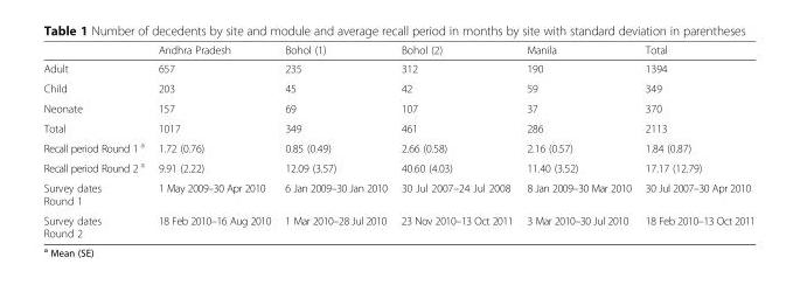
<table><thead><tr><td></td><td>Andhra Pradesh</td><td>Bohol (1)</td><td>Bohol (2)</td><td>Manila</td><td>Total</td></tr></thead><tbody><tr><td>Adult</td><td>657</td><td>235</td><td>312</td><td>190</td><td>1394</td></tr><tr><td>Child</td><td>203</td><td>45</td><td>42</td><td>59</td><td>349</td></tr><tr><td>Neonate</td><td>157</td><td>69</td><td>107</td><td>37</td><td>370</td></tr><tr><td>Total</td><td>1017</td><td>349</td><td>461</td><td>286</td><td>2113</td></tr><tr><td>Recall period Round 1 <sup>a</sup></td><td>1.72 (0.76)</td><td>0.85 (0.49)</td><td>2.66 (0.58)</td><td>2.16 (0.57)</td><td>1.84 (0.87)</td></tr><tr><td>Recall period Round 2 <sup>a</sup></td><td>9.91 (2.22)</td><td>12.09 (3.57)</td><td>40.60 (4.03)</td><td>11.40 (3.52)</td><td>17.17 (12.79)</td></tr><tr><td>Survey dates Round 1</td><td>1 May 2009–30 Apr 2010</td><td>6 Jan 2009–30 Jan 2010</td><td>30 Jul 2007–24 Jul 2008</td><td>8 Jan 2009–30 Mar 2010</td><td>30 Jul 2007–30 Apr 2010</td></tr><tr><td>Survey dates Round 2</td><td>18 Feb 2010–16 Aug 2010</td><td>1 Mar 2010–28 Jul 2010</td><td>23 Nov 2010–13 Oct 2011</td><td>3 Mar 2010–30 Jul 2010</td><td>18 Feb 2010–13 Oct 2011</td></tr></tbody></table>